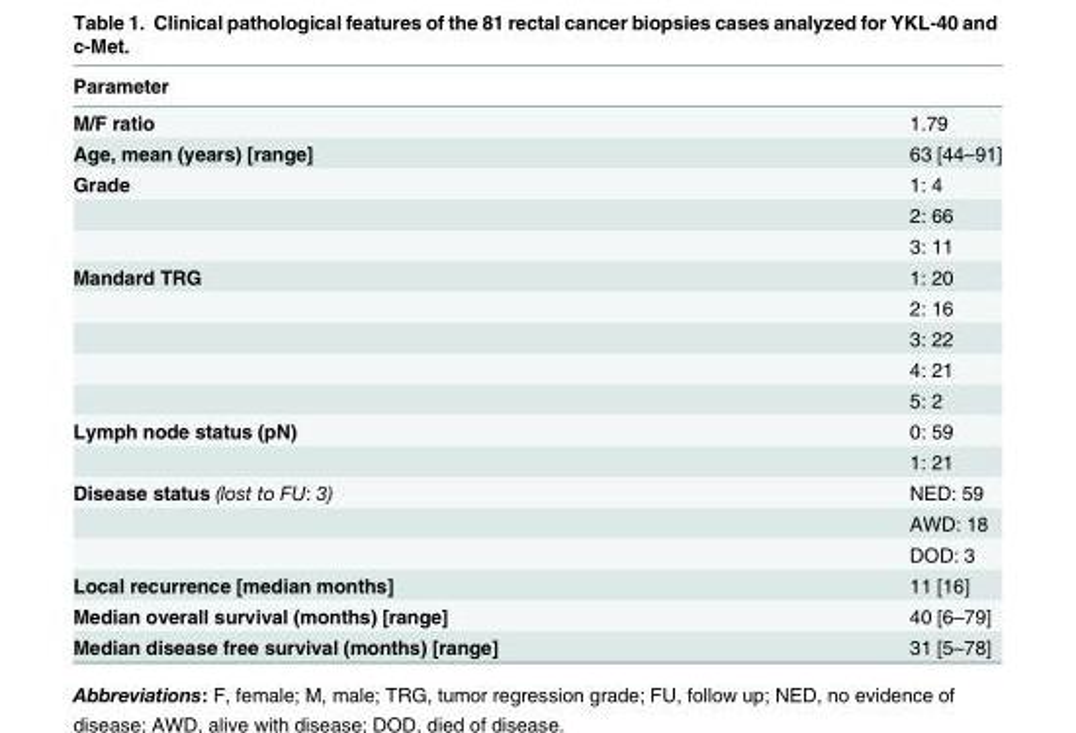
<table><thead><tr><td>Parameter</td><td></td></tr></thead><tbody><tr><td>M/F ratio</td><td>1.79</td></tr><tr><td>Age, mean (years) [range]</td><td>63 [44–91]</td></tr><tr><td rowspan="3">Grade</td><td>1: 4</td></tr><tr><td>2: 66</td></tr><tr><td>3: 11</td></tr><tr><td rowspan="5">Mandard TRG</td><td>1: 20</td></tr><tr><td>2: 16</td></tr><tr><td>3: 22</td></tr><tr><td>4: 21</td></tr><tr><td>5: 2</td></tr><tr><td rowspan="2">Lymph node status (pN)</td><td>0: 59</td></tr><tr><td>1: 21</td></tr><tr><td rowspan="3">Disease status (lost to FU: 3)</td><td>NED: 59</td></tr><tr><td>AWD: 18</td></tr><tr><td>DOD: 3</td></tr><tr><td>Local recurrence [median months]</td><td>11 [16]</td></tr><tr><td>Median overall survival (months) [range]</td><td>40 [6–79]</td></tr><tr><td>Median disease free survival (months) [range]</td><td>31 [5–78]</td></tr></tbody></table>